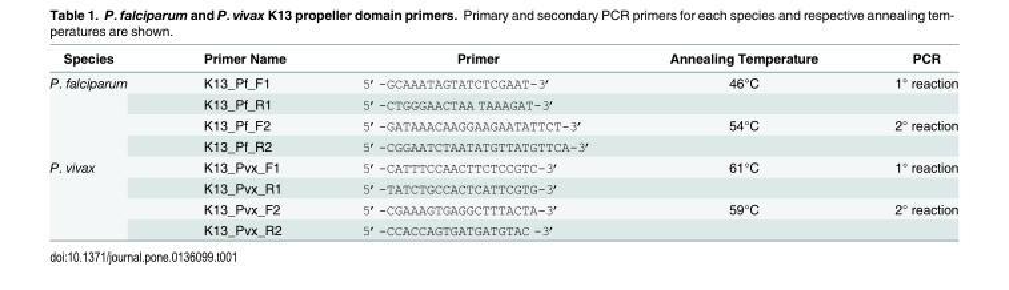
<table><thead><tr><td>Species</td><td>Primer Name</td><td>Primer</td><td>Annealing Temperature</td><td>PCR</td></tr></thead><tbody><tr><td rowspan="4">P. falciparum</td><td>K13_Pf_F1</td><td>5’-GCAAATAGTATCTCGAAT-3’</td><td>46°C</td><td>1° reaction</td></tr><tr><td>K13_Pf_R1</td><td>5’-CTGGGAACTAA TAAAGAT-3’</td><td></td><td></td></tr><tr><td>K13_Pf_F2</td><td>5’-GATAAACAAGGAAGAATATTCT-3’</td><td>54°C</td><td>2° reaction</td></tr><tr><td>K13_Pf_R2</td><td>5’-CGGAATCTAATATGTTATGTTCA-3’</td><td></td><td></td></tr><tr><td rowspan="4">P. vivax</td><td>K13_Pvx_F1</td><td>5’-CATTTCCAACTTCTCCGTC-3’</td><td>61°C</td><td>1° reaction</td></tr><tr><td>K13_Pvx_R1</td><td>5’-TATCTGCCACTCATTCGTG-3’</td><td></td><td></td></tr><tr><td>K13_Pvx_F2</td><td>5’-CGAAAGTGAGGCTTTACTA-3’</td><td>59°C</td><td>2° reaction</td></tr><tr><td>K13_Pvx_R2</td><td>5’-CCACCAGTGATGATGTAC -3’</td><td></td><td></td></tr></tbody></table>